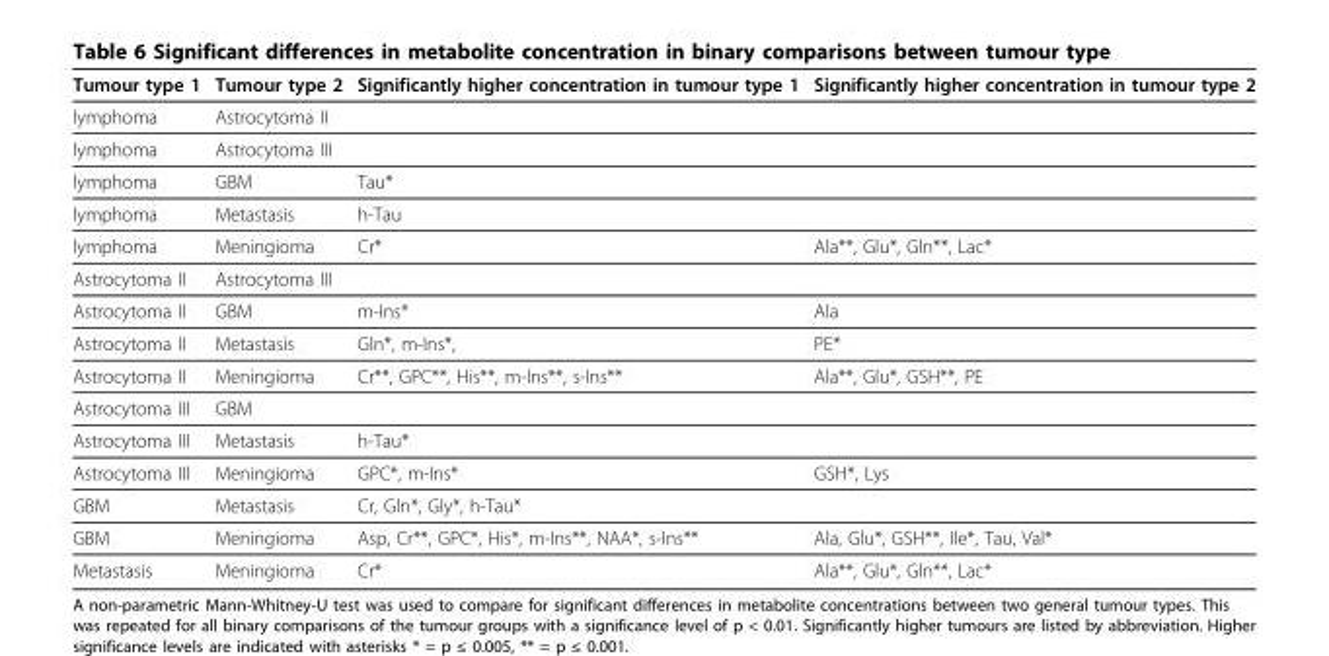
<table><thead><tr><td>Tumour type 1</td><td>Tumour type 2</td><td>Significantly higher concentration in tumour type 1</td><td>Significantly higher concentration in tumour type 2</td></tr></thead><tbody><tr><td>lymphoma</td><td>Astrocytoma II</td><td></td><td></td></tr><tr><td>lymphoma</td><td>Astrocytoma III</td><td></td><td></td></tr><tr><td>lymphoma</td><td>GBM</td><td>Tau*</td><td></td></tr><tr><td>lymphoma</td><td>Metastasis</td><td>h-Tau</td><td></td></tr><tr><td>lymphoma</td><td>Meningioma</td><td>Cr*</td><td>Ala**, Glu*, Gln**, Lac*</td></tr><tr><td>Astrocytoma II</td><td>Astrocytoma III</td><td></td><td></td></tr><tr><td>Astrocytoma II</td><td>GBM</td><td>m-Ins*</td><td>Ala</td></tr><tr><td>Astrocytoma II</td><td>Metastasis</td><td>Gln*, m-Ins*,</td><td>PE*</td></tr><tr><td>Astrocytoma II</td><td>Meningioma</td><td>Cr**, GPC**, His**, m-Ins**, s-Ins**</td><td>Ala**, Glu*, GSH**, PE</td></tr><tr><td>Astrocytoma III</td><td>GBM</td><td></td><td></td></tr><tr><td>Astrocytoma III</td><td>Metastasis</td><td>h-Tau*</td><td></td></tr><tr><td>Astrocytoma III</td><td>Meningioma</td><td>GPC*, m-Ins*</td><td>GSH*, Lys</td></tr><tr><td>GBM</td><td>Metastasis</td><td>Cr, Gln*, Gly*, h-Tau*</td><td></td></tr><tr><td>GBM</td><td>Meningioma</td><td>Asp, Cr**, GPC*, His*, m-Ins**, NAA*, s-Ins**</td><td>Ala, Glu*, GSH**, Ile*, Tau, Val*</td></tr><tr><td>Metastasis</td><td>Meningioma</td><td>Cr*</td><td>Ala**, Glu*, Gln**, Lac*</td></tr></tbody></table>